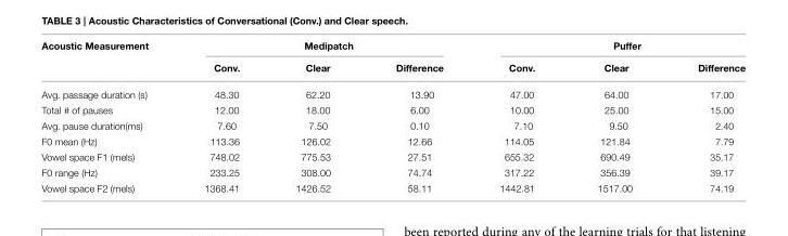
<table><thead><tr><td rowspan="2">Acoustic Measurement</td><td colspan="3">Medipatch</td><td colspan="3">Puffer</td></tr><tr><td>Conv.</td><td>Clear</td><td>Difference</td><td>Conv.</td><td>Clear</td><td>Difference</td></tr></thead><tbody><tr><td>Avg. passage duration (s)</td><td>48.30</td><td>62.20</td><td>13.90</td><td>47.00</td><td>64.00</td><td>17.00</td></tr><tr><td>Total # of pauses</td><td>12.00</td><td>18.00</td><td>6.00</td><td>10.00</td><td>25.00</td><td>15.00</td></tr><tr><td>Avg. pause duration(ms)</td><td>7.60</td><td>7.50</td><td>0.10</td><td>7.10</td><td>9.50</td><td>2.40</td></tr><tr><td>F0 mean (Hz)</td><td>113.36</td><td>126.02</td><td>12.66</td><td>114.05</td><td>121.84</td><td>7.79</td></tr><tr><td>Vowel space F1 (mels)</td><td>748.02</td><td>775.53</td><td>27.51</td><td>655.32</td><td>690.49</td><td>35.17</td></tr><tr><td>F0 range (Hz)</td><td>233.25</td><td>308.00</td><td>74.74</td><td>317.22</td><td>356.39</td><td>39.17</td></tr><tr><td>Vowel space F2 (mels)</td><td>1368.41</td><td>1426.52</td><td>58.11</td><td>1442.81</td><td>1517.00</td><td>74.19</td></tr></tbody></table>